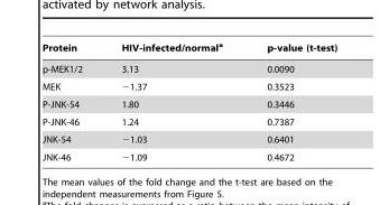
<table><thead><tr><td>Protein</td><td>HIV-infected/normal<sup>a</sup></td><td>p-value (t-test)</td></tr></thead><tbody><tr><td>p-MEK1/2</td><td>3.13</td><td>0.0090</td></tr><tr><td>MEK</td><td>−1.37</td><td>0.3523</td></tr><tr><td>P-JNK-54</td><td>1.80</td><td>0.3446</td></tr><tr><td>P-JNK-46</td><td>1.24</td><td>0.7387</td></tr><tr><td>JNK-54</td><td>−1.03</td><td>0.6401</td></tr><tr><td>JNK-46</td><td>−1.09</td><td>0.4672</td></tr></tbody></table>